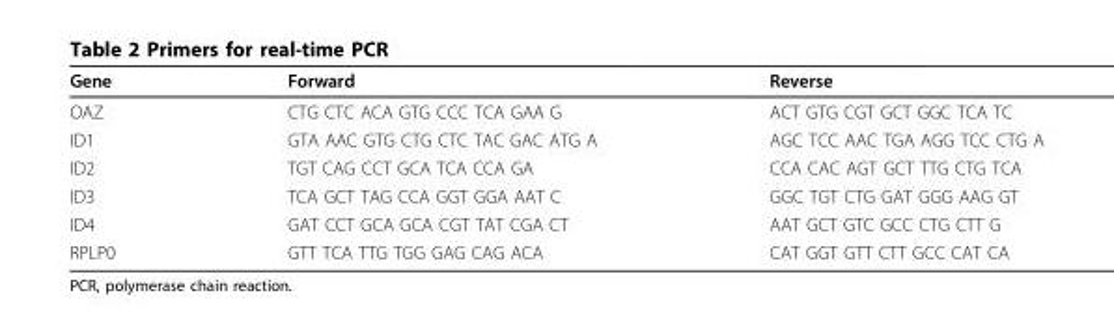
<table><thead><tr><td>Gene</td><td>Forward</td><td>Reverse</td></tr></thead><tbody><tr><td>OAZ</td><td>CTG CTC ACA GTG CCC TCA GAA G</td><td>ACT GTG CGT GCT GGC TCA TC</td></tr><tr><td>ID1</td><td>GTA AAC GTG CTG CTC TAC GAC ATG A</td><td>AGC TCC AAC TGA AGG TCC CTG A</td></tr><tr><td>ID2</td><td>TGT CAG CCT GCA TCA CCA GA</td><td>CCA CAC AGT GCT TTG CTG TCA</td></tr><tr><td>ID3</td><td>TCA GCT TAG CCA GGT GGA AAT C</td><td>GGC TGT CTG GAT GGG AAG GT</td></tr><tr><td>ID4</td><td>GAT CCT GCA GCA CGT TAT CGA CT</td><td>AAT GCT GTC GCC CTG CTT G</td></tr><tr><td>RPLP0</td><td>GTT TCA TTG TGG GAG CAG ACA</td><td>CAT GGT GTT CTT GCC CAT CA</td></tr></tbody></table>